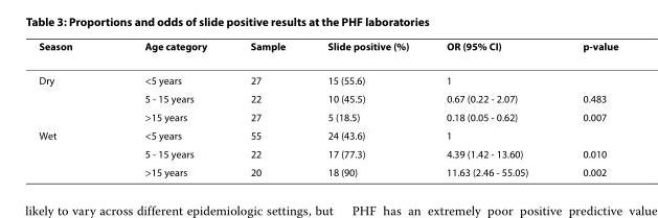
<table><thead><tr><td>Season</td><td>Age category</td><td>Sample</td><td>Slide positive (%)</td><td>OR (95% CI)</td><td>p-value</td></tr></thead><tbody><tr><td rowspan="3">Dry</td><td>&lt;5 years</td><td>27</td><td>15 (55.6)</td><td>1</td><td></td></tr><tr><td>5 - 15 years</td><td>22</td><td>10 (45.5)</td><td>0.67 (0.22 - 2.07)</td><td>0.483</td></tr><tr><td>&gt;15 years</td><td>27</td><td>5 (18.5)</td><td>0.18 (0.05 - 0.62)</td><td>0.007</td></tr><tr><td rowspan="3">Wet</td><td>&lt;5 years</td><td>55</td><td>24 (43.6)</td><td>1</td><td></td></tr><tr><td>5 - 15 years</td><td>22</td><td>17 (77.3)</td><td>4.39 (1.42 - 13.60)</td><td>0.010</td></tr><tr><td>&gt;15 years</td><td>20</td><td>18 (90)</td><td>11.63 (2.46 - 55.05)</td><td>0.002</td></tr></tbody></table>